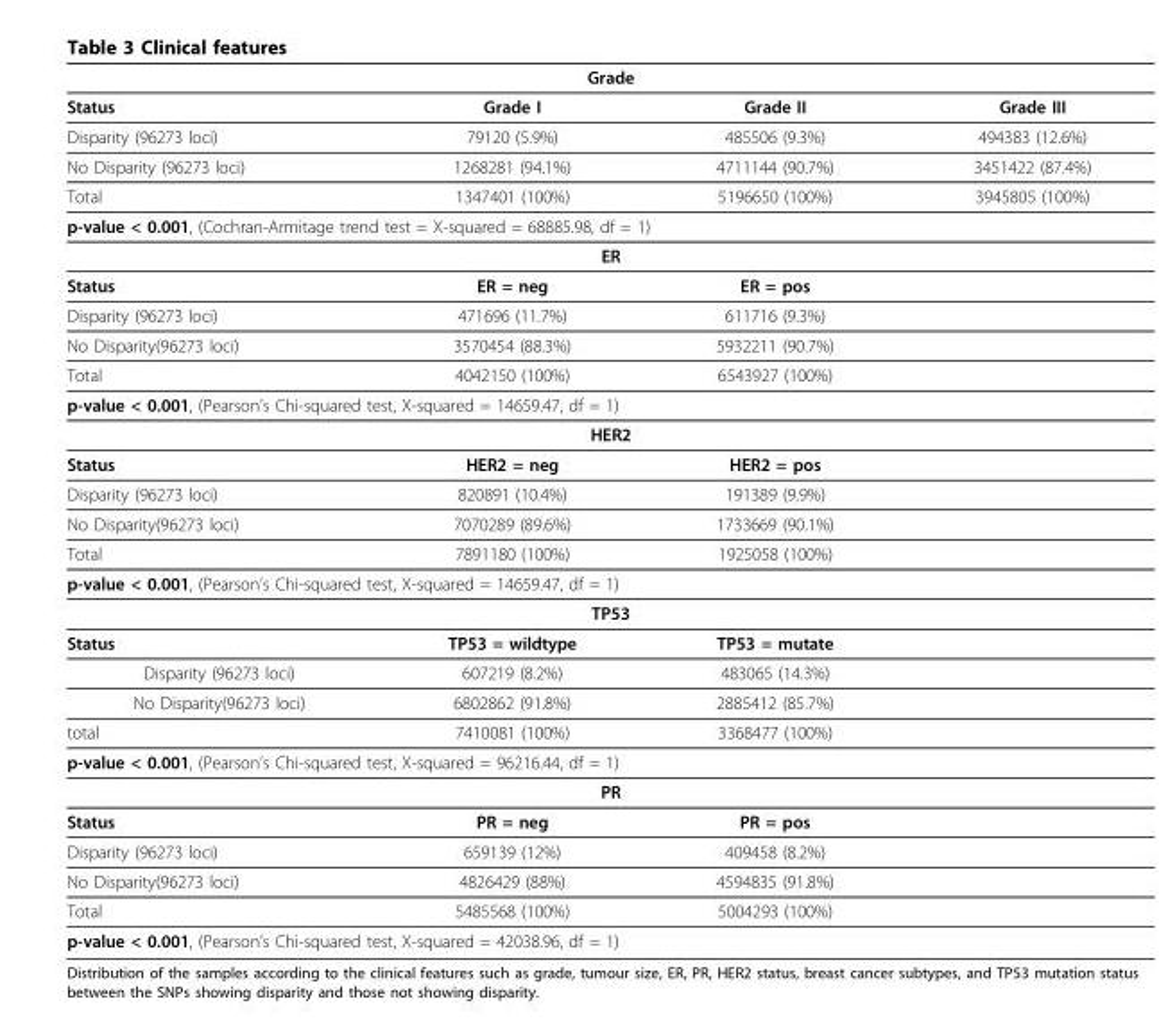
<table><thead><tr><td colspan="4">Grade</td></tr><tr><td>Status</td><td>Grade I</td><td>Grade II</td><td>Grade III</td></tr></thead><tbody><tr><td>Disparity (96273 loci)</td><td>79120 (5.9%)</td><td>485506 (9.3%)</td><td>494383 (12.6%)</td></tr><tr><td>No Disparity (96273 loci)</td><td>1268281 (94.1%)</td><td>4711144 (90.7%)</td><td>3451422 (87.4%)</td></tr><tr><td>Total</td><td>1347401 (100%)</td><td>5196650 (100%)</td><td>3945805 (100%)</td></tr><tr><td colspan="4">p-value &lt; 0.001, (Cochran-Armitage trend test = X-squared = 68885.98, df = 1)</td></tr><tr><td colspan="4">ER</td></tr><tr><td>Status</td><td>ER = neg</td><td>ER = pos</td><td></td></tr><tr><td>Disparity (96273 loci)</td><td>471696 (11.7%)</td><td>611716 (9.3%)</td><td></td></tr><tr><td>No Disparity(96273 loci)</td><td>3570454 (88.3%)</td><td>5932211 (90.7%)</td><td></td></tr><tr><td>Total</td><td>4042150 (100%)</td><td>6543927 (100%)</td><td></td></tr><tr><td colspan="4">p-value &lt; 0.001, (Pearson’s Chi-squared test, X-squared = 14659.47, df = 1)</td></tr><tr><td colspan="4">HER2</td></tr><tr><td>Status</td><td>HER2 = neg</td><td>HER2 = pos</td><td></td></tr><tr><td>Disparity (96273 loci)</td><td>820891 (10.4%)</td><td>191389 (9.9%)</td><td></td></tr><tr><td>No Disparity(96273 loci)</td><td>7070289 (89.6%)</td><td>1733669 (90.1%)</td><td></td></tr><tr><td>Total</td><td>7891180 (100%)</td><td>1925058 (100%)</td><td></td></tr><tr><td colspan="4">p-value &lt; 0.001, (Pearson’s Chi-squared test, X-squared = 14659.47, df = 1)</td></tr><tr><td colspan="4">TP53</td></tr><tr><td>Status</td><td>TP53 = wildtype</td><td>TP53 = mutate</td><td></td></tr><tr><td>Disparity (96273 loci)</td><td>607219 (8.2%)</td><td>483065 (14.3%)</td><td></td></tr><tr><td>No Disparity(96273 loci)</td><td>6802862 (91.8%)</td><td>2885412 (85.7%)</td><td></td></tr><tr><td>total</td><td>7410081 (100%)</td><td>3368477 (100%)</td><td></td></tr><tr><td colspan="4">p-value &lt; 0.001, (Pearson’s Chi-squared test, X-squared = 96216.44, df = 1)</td></tr><tr><td colspan="4">PR</td></tr><tr><td>Status</td><td>PR = neg</td><td>PR = pos</td><td></td></tr><tr><td>Disparity (96273 loci)</td><td>659139 (12%)</td><td>409458 (8.2%)</td><td></td></tr><tr><td>No Disparity(96273 loci)</td><td>4826429 (88%)</td><td>4594835 (91.8%)</td><td></td></tr><tr><td>Total</td><td>5485568 (100%)</td><td>5004293 (100%)</td><td></td></tr><tr><td colspan="4">p-value &lt; 0.001, (Pearson’s Chi-squared test, X-squared = 42038.96, df = 1)</td></tr></tbody></table>